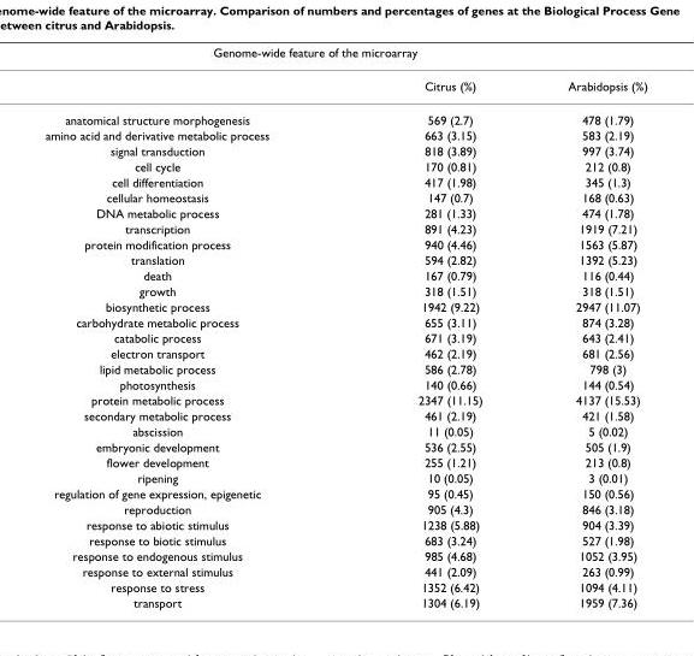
<table><thead><tr><td colspan="3">Genome-wide feature of the microarray</td></tr><tr><td></td><td>Citrus (%)</td><td>Arabidopsis (%)</td></tr></thead><tbody><tr><td>anatomical structure morphogenesis</td><td>569 (2.7)</td><td>478 (1.79)</td></tr><tr><td>amino acid and derivative metabolic process</td><td>663 (3.15)</td><td>583 (2.19)</td></tr><tr><td>signal transduction</td><td>818 (3.89)</td><td>997 (3.74)</td></tr><tr><td>cell cycle</td><td>170 (0.81)</td><td>212 (0.8)</td></tr><tr><td>cell differentiation</td><td>417 (1.98)</td><td>345 (1.3)</td></tr><tr><td>cellular homeostasis</td><td>147 (0.7)</td><td>168 (0.63)</td></tr><tr><td>DNA metabolic process</td><td>281 (1.33)</td><td>474 (1.78)</td></tr><tr><td>transcription</td><td>891 (4.23)</td><td>1919 (7.21)</td></tr><tr><td>protein modification process</td><td>940 (4.46)</td><td>1563 (5.87)</td></tr><tr><td>translation</td><td>594 (2.82)</td><td>1392 (5.23)</td></tr><tr><td>death</td><td>167 (0.79)</td><td>116 (0.44)</td></tr><tr><td>growth</td><td>318 (1.51)</td><td>318 (1.51)</td></tr><tr><td>biosynthetic process</td><td>1942 (9.22)</td><td>2947 (11.07)</td></tr><tr><td>carbohydrate metabolic process</td><td>655 (3.11)</td><td>874 (3.28)</td></tr><tr><td>catabolic process</td><td>671 (3.19)</td><td>643 (2.41)</td></tr><tr><td>electron transport</td><td>462 (2.19)</td><td>681 (2.56)</td></tr><tr><td>lipid metabolic process</td><td>586 (2.78)</td><td>798 (3)</td></tr><tr><td>photosynthesis</td><td>140 (0.66)</td><td>144 (0.54)</td></tr><tr><td>protein metabolic process</td><td>2347 (11.15)</td><td>4137 (15.53)</td></tr><tr><td>secondary metabolic process</td><td>461 (2.19)</td><td>421 (1.58)</td></tr><tr><td>abscission</td><td>11 (0.05)</td><td>5 (0.02)</td></tr><tr><td>embryonic development</td><td>536 (2.55)</td><td>505 (1.9)</td></tr><tr><td>flower development</td><td>255 (1.21)</td><td>213 (0.8)</td></tr><tr><td>ripening</td><td>10 (0.05)</td><td>3 (0.01)</td></tr><tr><td>regulation of gene expression, epigenetic</td><td>95 (0.45)</td><td>150 (0.56)</td></tr><tr><td>reproduction</td><td>905 (4.3)</td><td>846 (3.18)</td></tr><tr><td>response to abiotic stimulus</td><td>1238 (5.88)</td><td>904 (3.39)</td></tr><tr><td>response to biotic stimulus</td><td>683 (3.24)</td><td>527 (1.98)</td></tr><tr><td>response to endogenous stimulus</td><td>985 (4.68)</td><td>1052 (3.95)</td></tr><tr><td>response to external stimulus</td><td>441 (2.09)</td><td>263 (0.99)</td></tr><tr><td>response to stress</td><td>1352 (6.42)</td><td>1094 (4.11)</td></tr><tr><td>transport</td><td>1304 (6.19)</td><td>1959 (7.36)</td></tr></tbody></table>